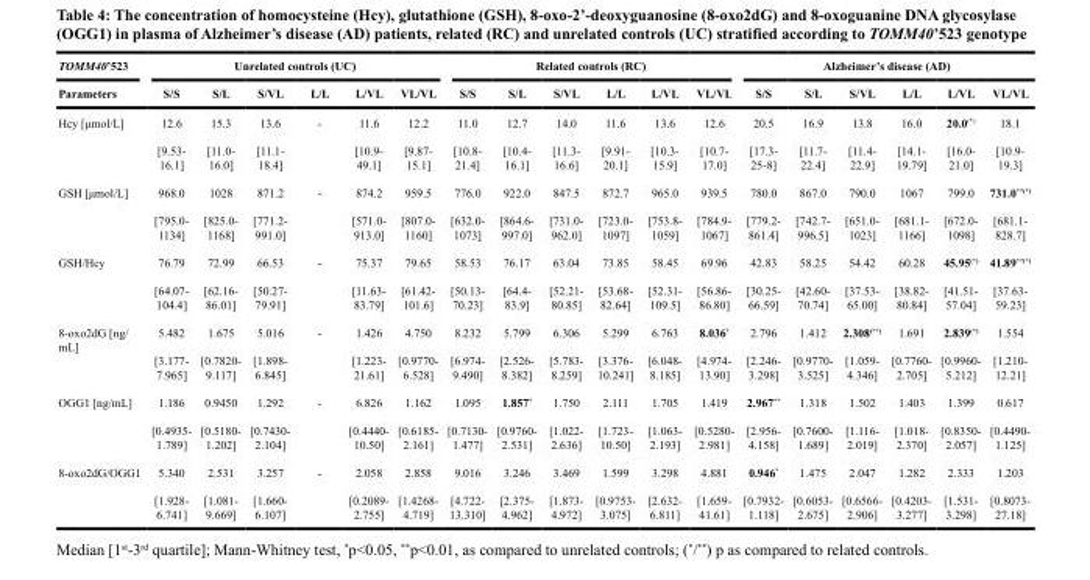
<table><thead><tr><td rowspan="2">TOMM40’523 Parameters</td><td colspan="6">Unrelated controls (UC)</td><td colspan="6">Related controls (RC)</td><td colspan="6">Alzheimer’s disease (AD)</td></tr><tr><td>S/S</td><td>S/L</td><td>S/VL</td><td>L/L</td><td>L/VL</td><td>VL/VL</td><td>S/S</td><td>S/L</td><td>S/VL</td><td>L/L</td><td>L/VL</td><td>VL/VL</td><td>S/S</td><td>S/L</td><td>S/VL</td><td>L/L</td><td>L/VL</td><td>VL/VL</td></tr></thead><tbody><tr><td rowspan="2">Hcy [μmol/L]</td><td>12.6</td><td>15.3</td><td>13.6</td><td>-</td><td>11.6</td><td>12.2</td><td>11.0</td><td>12.7</td><td>14.0</td><td>11.6</td><td>13.6</td><td>12.6</td><td>20.5</td><td>16.9</td><td>13.8</td><td>16.0</td><td>20.0<sup>(*)</sup></td><td>18.1</td></tr><tr><td>[9.53- 16.1]</td><td>[11.0- 16.0]</td><td>[11.1- 18.4]</td><td></td><td>[10.9- 49.1]</td><td>[9.87- 15.1]</td><td>[10.8- 21.4]</td><td>[10.4- 16.1]</td><td>[11.3- 16.6]</td><td>[9.91- 20.1]</td><td>[10.3- 15.9]</td><td>[10.7- 17.0]</td><td>[17.3- 25-8]</td><td>[11.7- 22.4]</td><td>[11.4- 22.9]</td><td>[14.1- 19.79]</td><td>[16.0- 21.0]</td><td>[10.9- 19.3]</td></tr><tr><td rowspan="2">GSH [μmol/L]</td><td>968.0</td><td>1028</td><td>871.2</td><td>-</td><td>874.2</td><td>959.5</td><td>776.0</td><td>922.0</td><td>847.5</td><td>872.7</td><td>965.0</td><td>939.5</td><td>780.0</td><td>867.0</td><td>790.0</td><td>1067</td><td>799.0</td><td>731.0<sup>**(*)</sup></td></tr><tr><td>[795.0- 1134]</td><td>[825.0- 1168]</td><td>[771.2- 991.0]</td><td></td><td>[571.0- 913.0]</td><td>[807.0- 1160]</td><td>[632.0- 1073]</td><td>[864.6- 997.0]</td><td>[731.0- 962.0]</td><td>[723.0- 1097]</td><td>[753.8- 1059]</td><td>[784.9- 1067]</td><td>[779.2- 861.4]</td><td>[742.7- 996.5]</td><td>[651.0- 1023]</td><td>[681.1- 1166]</td><td>[672.0- 1098]</td><td>[681.1- 828.7]</td></tr><tr><td rowspan="2">GSH/Hcy</td><td>76.79</td><td>72.99</td><td>66.53</td><td>-</td><td>75.37</td><td>79.65</td><td>58.53</td><td>76.17</td><td>63.04</td><td>73.85</td><td>58.45</td><td>69.96</td><td>42.83</td><td>58.25</td><td>54.42</td><td>60.28</td><td>45.95<sup>(*)</sup></td><td>41.89<sup>**(*)</sup></td></tr><tr><td>[64.07- 104.4]</td><td>[62.16- 86.01]</td><td>[50.27- 79.91]</td><td></td><td>[11.63- 83.79]</td><td>[61.42- 101.6]</td><td>[50.13- 70.23]</td><td>[64.4- 83.9]</td><td>[52.21- 80.85]</td><td>[53.68- 82.64]</td><td>[52.31- 109.5]</td><td>[56.86- 86.80]</td><td>[30.25- 66.59]</td><td>[42.60- 70.74]</td><td>[37.53- 65.00]</td><td>[38.82- 80.84]</td><td>[41.51- 57.04]</td><td>[37.63- 59.23]</td></tr><tr><td rowspan="2">8-oxo2dG [ng/ mL]</td><td>5.482</td><td>1.675</td><td>5.016</td><td>-</td><td>1.426</td><td>4.750</td><td>8.232</td><td>5.799</td><td>6.306</td><td>5.299</td><td>6.763</td><td>8.036*</td><td>2.796</td><td>1.412</td><td>2.308<sup>(**)</sup></td><td>1.691</td><td>2.839<sup>(*)</sup></td><td>1.554</td></tr><tr><td>[3.177- 7.965]</td><td>[0.7820- 9.117]</td><td>[1.898- 6.845]</td><td></td><td>[1.223- 21.61]</td><td>[0.9770- 6.528]</td><td>[6.974- 9.490]</td><td>[2.526- 8.382]</td><td>[5.783- 8.259]</td><td>[3.376- 10.241]</td><td>[6.048- 8.185]</td><td>[4.974- 13.90]</td><td>[2.246- 3.298]</td><td>[0.9770- 3.525]</td><td>[1.059- 4.346]</td><td>[0.7760- 2.705]</td><td>[0.9960- 5.212]</td><td>[1.210- 12.21]</td></tr><tr><td rowspan="2">OGG1 [ng/mL]</td><td>1.186</td><td>0.9450</td><td>1.292</td><td>-</td><td>6.826</td><td>1.162</td><td>1.095</td><td>1.857*</td><td>1.750</td><td>2.111</td><td>1.705</td><td>1.419</td><td>2.967**</td><td>1.318</td><td>1.502</td><td>1.403</td><td>1.399</td><td>0.617</td></tr><tr><td>[0.4935- 1.789]</td><td>[0.5180- 1.202]</td><td>[0.7430- 2.104]</td><td></td><td>[0.4440- 10.50]</td><td>[0.6185- 2.161]</td><td>[0.7130- 1.477]</td><td>[0.9760- 2.531]</td><td>[1.022- 2.636]</td><td>[1.723- 10.50]</td><td>[1.063- 2.193]</td><td>[0.5280- 2.981]</td><td>[2.956- 4.158]</td><td>[0.7600- 1.689]</td><td>[1.116- 2.019]</td><td>[1.018- 2.370]</td><td>[0.8350- 2.057]</td><td>[0.4490- 1.125]</td></tr><tr><td rowspan="2">8-oxo2dG/OGG1</td><td>5.340</td><td>2.531</td><td>3.257</td><td>-</td><td>2.058</td><td>2.858</td><td>9.016</td><td>3.246</td><td>3.469</td><td>1.599</td><td>3.298</td><td>4.881</td><td>0.946*</td><td>1.475</td><td>2.047</td><td>1.282</td><td>2.333</td><td>1.203</td></tr><tr><td>[1.928- 6.741]</td><td>[1.081- 9.669]</td><td>[1.660- 6.107]</td><td></td><td>[0.2089- 2.755]</td><td>[1.4268- 4.719]</td><td>[4.722- 13.310]</td><td>[2.375- 4.962]</td><td>[1.873- 4.972]</td><td>[0.9753- 3.075]</td><td>[2.632- 6.811]</td><td>[1.659- 41.61]</td><td>[0.7932- 1.118]</td><td>[0.6053- 2.675]</td><td>[0.6566- 2.906]</td><td>[0.4203- 3.277]</td><td>[1.531- 3.298]</td><td>[0.8073- 27.18]</td></tr></tbody></table>